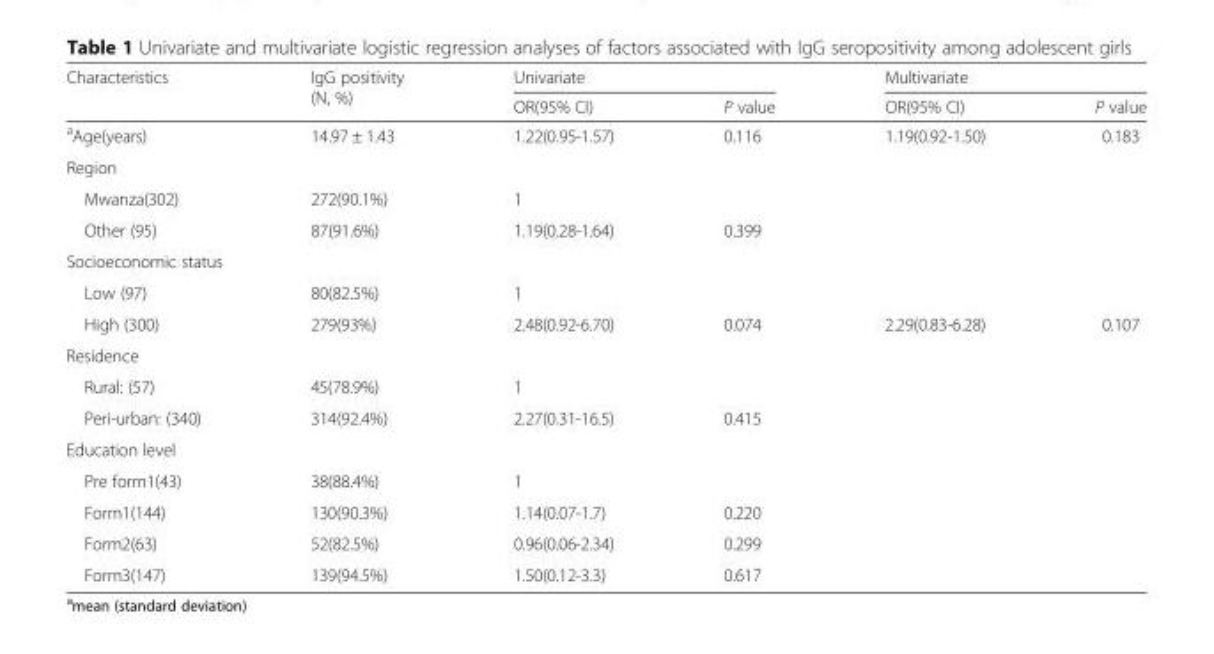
<table><thead><tr><td rowspan="2">Characteristics</td><td rowspan="2">IgG positivity (N, %)</td><td colspan="2">Univariate</td><td colspan="2">Multivariate</td></tr><tr><td>OR(95% CI)</td><td>P value</td><td>OR(95% CI)</td><td>P value</td></tr></thead><tbody><tr><td><sup>a</sup>Age(years)</td><td>14.97 ± 1.43</td><td>1.22(0.95-1.57)</td><td>0.116</td><td>1.19(0.92-1.50)</td><td>0.183</td></tr><tr><td colspan="6">Region</td></tr><tr><td>Mwanza(302)</td><td>272(90.1%)</td><td>1</td><td></td><td></td><td></td></tr><tr><td>Other (95)</td><td>87(91.6%)</td><td>1.19(0.28-1.64)</td><td>0.399</td><td></td><td></td></tr><tr><td colspan="6">Socioeconomic status</td></tr><tr><td>Low (97)</td><td>80(82.5%)</td><td>1</td><td></td><td></td><td></td></tr><tr><td>High (300)</td><td>279(93%)</td><td>2.48(0.92-6.70)</td><td>0.074</td><td>2.29(0.83-6.28)</td><td>0.107</td></tr><tr><td colspan="6">Residence</td></tr><tr><td>Rural: (57)</td><td>45(78.9%)</td><td>1</td><td></td><td></td><td></td></tr><tr><td>Peri-urban: (340)</td><td>314(92.4%)</td><td>2.27(0.31-16.5)</td><td>0.415</td><td></td><td></td></tr><tr><td colspan="6">Education level</td></tr><tr><td>Pre form1(43)</td><td>38(88.4%)</td><td>1</td><td></td><td></td><td></td></tr><tr><td>Form1(144)</td><td>130(90.3%)</td><td>1.14(0.07-1.7)</td><td>0.220</td><td></td><td></td></tr><tr><td>Form2(63)</td><td>52(82.5%)</td><td>0.96(0.06-2.34)</td><td>0.299</td><td></td><td></td></tr><tr><td>Form3(147)</td><td>139(94.5%)</td><td>1.50(0.12-3.3)</td><td>0.617</td><td></td><td></td></tr></tbody></table>